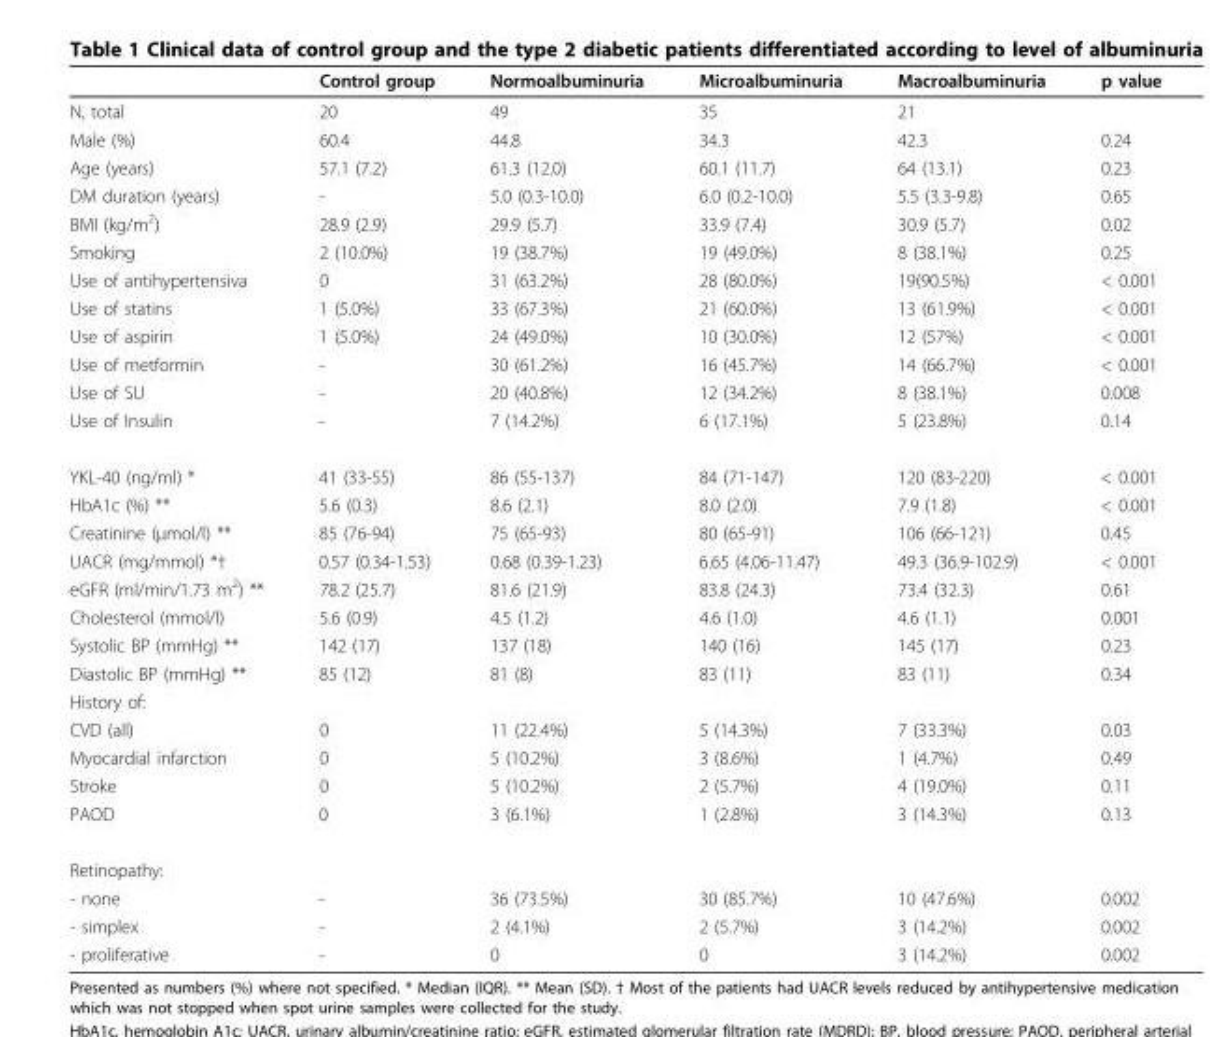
<table><thead><tr><td></td><td>Control group</td><td>Normoalbuminuria</td><td>Microalbuminuria</td><td>Macroalbuminuria</td><td>p value</td></tr></thead><tbody><tr><td>N, total</td><td>20</td><td>49</td><td>35</td><td>21</td><td></td></tr><tr><td>Male (%)</td><td>60.4</td><td>44.8</td><td>34.3</td><td>42.3</td><td>0.24</td></tr><tr><td>Age (years)</td><td>57.1 (7.2)</td><td>61.3 (12.0)</td><td>60.1 (11.7)</td><td>64 (13.1)</td><td>0.23</td></tr><tr><td>DM duration (years)</td><td>-</td><td>5.0 (0.3-10.0)</td><td>6.0 (0.2-10.0)</td><td>5.5 (3.3-9.8)</td><td>0.65</td></tr><tr><td>BMI (kg/m<sup>2</sup>)</td><td>28.9 (2.9)</td><td>29.9 (5.7)</td><td>33.9 (7.4)</td><td>30.9 (5.7)</td><td>0.02</td></tr><tr><td>Smoking</td><td>2 (10.0%)</td><td>19 (38.7%)</td><td>19 (49.0%)</td><td>8 (38.1%)</td><td>0.25</td></tr><tr><td>Use of antihypertensiva</td><td>0</td><td>31 (63.2%)</td><td>28 (80.0%)</td><td>19(90.5%)</td><td>&lt; 0.001</td></tr><tr><td>Use of statins</td><td>1 (5.0%)</td><td>33 (67.3%)</td><td>21 (60.0%)</td><td>13 (61.9%)</td><td>&lt; 0.001</td></tr><tr><td>Use of aspirin</td><td>1 (5.0%)</td><td>24 (49.0%)</td><td>10 (30.0%)</td><td>12 (57%)</td><td>&lt; 0.001</td></tr><tr><td>Use of metformin</td><td>-</td><td>30 (61.2%)</td><td>16 (45.7%)</td><td>14 (66.7%)</td><td>&lt; 0.001</td></tr><tr><td>Use of SU</td><td>-</td><td>20 (40.8%)</td><td>12 (34.2%)</td><td>8 (38.1%)</td><td>0.008</td></tr><tr><td>Use of Insulin</td><td>-</td><td>7 (14.2%)</td><td>6 (17.1%)</td><td>5 (23.8%)</td><td>0.14</td></tr><tr><td>YKL-40 (ng/ml) *</td><td>41 (33-55)</td><td>86 (55-137)</td><td>84 (71-147)</td><td>120 (83-220)</td><td>&lt; 0.001</td></tr><tr><td>HbA1c (%) **</td><td>5.6 (0.3)</td><td>8.6 (2.1)</td><td>8.0 (2.0)</td><td>7.9 (1.8)</td><td>&lt; 0.001</td></tr><tr><td>Creatinine (μmol/l) **</td><td>85 (76-94)</td><td>75 (65-93)</td><td>80 (65-91)</td><td>106 (66-121)</td><td>0.45</td></tr><tr><td>UACR (mg/mmol) *†</td><td>0.57 (0.34-1.53)</td><td>0.68 (0.39-1.23)</td><td>6.65 (4.06-11.47)</td><td>49.3 (36.9-102.9)</td><td>&lt; 0.001</td></tr><tr><td>eGFR (ml/min/1.73 m<sup>2</sup>) **</td><td>78.2 (25.7)</td><td>81.6 (21.9)</td><td>83.8 (24.3)</td><td>73.4 (32.3)</td><td>0.61</td></tr><tr><td>Cholesterol (mmol/l)</td><td>5.6 (0.9)</td><td>4.5 (1.2)</td><td>4.6 (1.0)</td><td>4.6 (1.1)</td><td>0.001</td></tr><tr><td>Systolic BP (mmHg) **</td><td>142 (17)</td><td>137 (18)</td><td>140 (16)</td><td>145 (17)</td><td>0.23</td></tr><tr><td>Diastolic BP (mmHg) **</td><td>85 (12)</td><td>81 (8)</td><td>83 (11)</td><td>83 (11)</td><td>0.34</td></tr><tr><td colspan="6">History of:</td></tr><tr><td>CVD (all)</td><td>0</td><td>11 (22.4%)</td><td>5 (14.3%)</td><td>7 (33.3%)</td><td>0.03</td></tr><tr><td>Myocardial infarction</td><td>0</td><td>5 (10.2%)</td><td>3 (8.6%)</td><td>1 (4.7%)</td><td>0.49</td></tr><tr><td>Stroke</td><td>0</td><td>5 (10.2%)</td><td>2 (5.7%)</td><td>4 (19.0%)</td><td>0.11</td></tr><tr><td>PAOD</td><td>0</td><td>3 (6.1%)</td><td>1 (2.8%)</td><td>3 (14.3%)</td><td>0.13</td></tr><tr><td colspan="6">Retinopathy:</td></tr><tr><td>- none</td><td>-</td><td>36 (73.5%)</td><td>30 (85.7%)</td><td>10 (47.6%)</td><td>0.002</td></tr><tr><td>- simplex</td><td>-</td><td>2 (4.1%)</td><td>2 (5.7%)</td><td>3 (14.2%)</td><td>0.002</td></tr><tr><td>- proliferative</td><td>-</td><td>0</td><td>0</td><td>3 (14.2%)</td><td>0.002</td></tr></tbody></table>